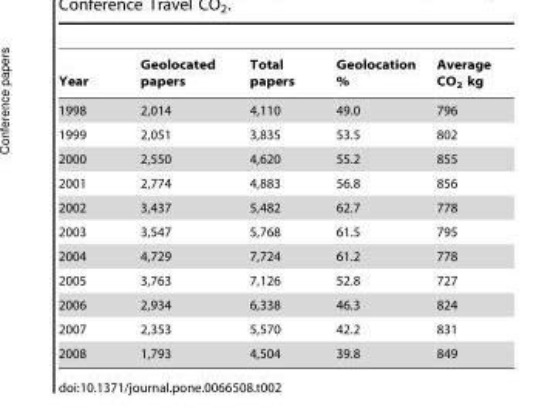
<table><thead><tr><td>Year</td><td>Geolocated papers</td><td>Total papers</td><td>Geolocation %</td><td>Average CO<sub>2</sub> kg</td></tr></thead><tbody><tr><td>1998</td><td>2,014</td><td>4,110</td><td>49.0</td><td>796</td></tr><tr><td>1999</td><td>2,051</td><td>3,835</td><td>53.5</td><td>802</td></tr><tr><td>2000</td><td>2,550</td><td>4,620</td><td>55.2</td><td>855</td></tr><tr><td>2001</td><td>2,774</td><td>4,883</td><td>56.8</td><td>856</td></tr><tr><td>2002</td><td>3,437</td><td>5,482</td><td>62.7</td><td>778</td></tr><tr><td>2003</td><td>3,547</td><td>5,768</td><td>61.5</td><td>795</td></tr><tr><td>2004</td><td>4,729</td><td>7,724</td><td>61.2</td><td>778</td></tr><tr><td>2005</td><td>3,763</td><td>7,126</td><td>52.8</td><td>727</td></tr><tr><td>2006</td><td>2,934</td><td>6,338</td><td>46.3</td><td>824</td></tr><tr><td>2007</td><td>2,353</td><td>5,570</td><td>42.2</td><td>831</td></tr><tr><td>2008</td><td>1,793</td><td>4,504</td><td>39.8</td><td>849</td></tr></tbody></table>